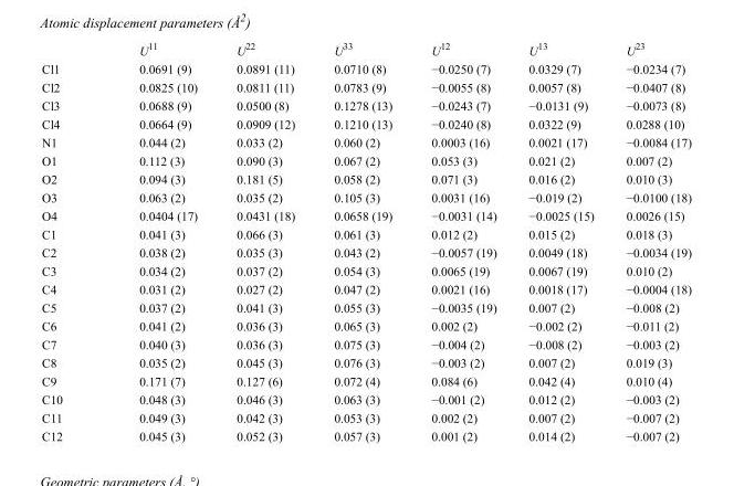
<table><thead><tr><td></td><td>U<sup>11</sup></td><td>U<sup>22</sup></td><td>U<sup>33</sup></td><td>U<sup>12</sup></td><td>U<sup>13</sup></td><td>U<sup>23</sup></td></tr></thead><tbody><tr><td>Cl1</td><td>0.0691 (9)</td><td>0.0891 (11)</td><td>0.0710 (8)</td><td>−0.0250 (7)</td><td>0.0329 (7)</td><td>−0.0234 (7)</td></tr><tr><td>Cl2</td><td>0.0825 (10)</td><td>0.0811 (11)</td><td>0.0783 (9)</td><td>−0.0055 (8)</td><td>0.0057 (8)</td><td>−0.0407 (8)</td></tr><tr><td>Cl3</td><td>0.0688 (9)</td><td>0.0500 (8)</td><td>0.1278 (13)</td><td>−0.0243 (7)</td><td>−0.0131 (9)</td><td>−0.0073 (8)</td></tr><tr><td>Cl4</td><td>0.0664 (9)</td><td>0.0909 (12)</td><td>0.1210 (13)</td><td>−0.0240 (8)</td><td>0.0322 (9)</td><td>0.0288 (10)</td></tr><tr><td>N1</td><td>0.044 (2)</td><td>0.033 (2)</td><td>0.060 (2)</td><td>0.0003 (16)</td><td>0.0021 (17)</td><td>−0.0084 (17)</td></tr><tr><td>O1</td><td>0.112 (3)</td><td>0.090 (3)</td><td>0.067 (2)</td><td>0.053 (3)</td><td>0.021 (2)</td><td>0.007 (2)</td></tr><tr><td>O2</td><td>0.094 (3)</td><td>0.181 (5)</td><td>0.058 (2)</td><td>0.071 (3)</td><td>0.016 (2)</td><td>0.010 (3)</td></tr><tr><td>O3</td><td>0.063 (2)</td><td>0.035 (2)</td><td>0.105 (3)</td><td>0.0031 (16)</td><td>−0.019 (2)</td><td>−0.0100 (18)</td></tr><tr><td>O4</td><td>0.0404 (17)</td><td>0.0431 (18)</td><td>0.0658 (19)</td><td>−0.0031 (14)</td><td>−0.0025 (15)</td><td>0.0026 (15)</td></tr><tr><td>C1</td><td>0.041 (3)</td><td>0.066 (3)</td><td>0.061 (3)</td><td>0.012 (2)</td><td>0.015 (2)</td><td>0.018 (3)</td></tr><tr><td>C2</td><td>0.038 (2)</td><td>0.035 (3)</td><td>0.043 (2)</td><td>−0.0057 (19)</td><td>0.0049 (18)</td><td>−0.0034 (19)</td></tr><tr><td>C3</td><td>0.034 (2)</td><td>0.037 (2)</td><td>0.054 (3)</td><td>0.0065 (19)</td><td>0.0067 (19)</td><td>0.010 (2)</td></tr><tr><td>C4</td><td>0.031 (2)</td><td>0.027 (2)</td><td>0.047 (2)</td><td>0.0021 (16)</td><td>0.0018 (17)</td><td>−0.0004 (18)</td></tr><tr><td>C5</td><td>0.037 (2)</td><td>0.041 (3)</td><td>0.055 (3)</td><td>−0.0035 (19)</td><td>0.007 (2)</td><td>−0.008 (2)</td></tr><tr><td>C6</td><td>0.041 (2)</td><td>0.036 (3)</td><td>0.065 (3)</td><td>0.002 (2)</td><td>−0.002 (2)</td><td>−0.011 (2)</td></tr><tr><td>C7</td><td>0.040 (3)</td><td>0.036 (3)</td><td>0.075 (3)</td><td>−0.004 (2)</td><td>−0.008 (2)</td><td>−0.003 (2)</td></tr><tr><td>C8</td><td>0.035 (2)</td><td>0.045 (3)</td><td>0.076 (3)</td><td>−0.003 (2)</td><td>0.007 (2)</td><td>0.019 (3)</td></tr><tr><td>C9</td><td>0.171 (7)</td><td>0.127 (6)</td><td>0.072 (4)</td><td>0.084 (6)</td><td>0.042 (4)</td><td>0.010 (4)</td></tr><tr><td>C10</td><td>0.048 (3)</td><td>0.046 (3)</td><td>0.063 (3)</td><td>−0.001 (2)</td><td>0.012 (2)</td><td>−0.003 (2)</td></tr><tr><td>C11</td><td>0.049 (3)</td><td>0.042 (3)</td><td>0.053 (3)</td><td>0.002 (2)</td><td>0.007 (2)</td><td>−0.007 (2)</td></tr><tr><td>C12</td><td>0.045 (3)</td><td>0.052 (3)</td><td>0.057 (3)</td><td>0.001 (2)</td><td>0.014 (2)</td><td>−0.007 (2)</td></tr></tbody></table>